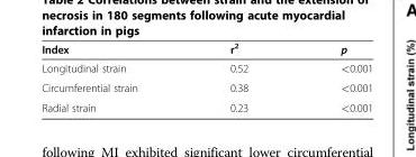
<table><thead><tr><td>Index</td><td>r<sup>2</sup></td><td>p</td></tr></thead><tbody><tr><td>Longitudinal strain</td><td>0.52</td><td>&lt;0.001</td></tr><tr><td>Circumferential strain</td><td>0.38</td><td>&lt;0.001</td></tr><tr><td>Radial strain</td><td>0.23</td><td>&lt;0.001</td></tr></tbody></table>